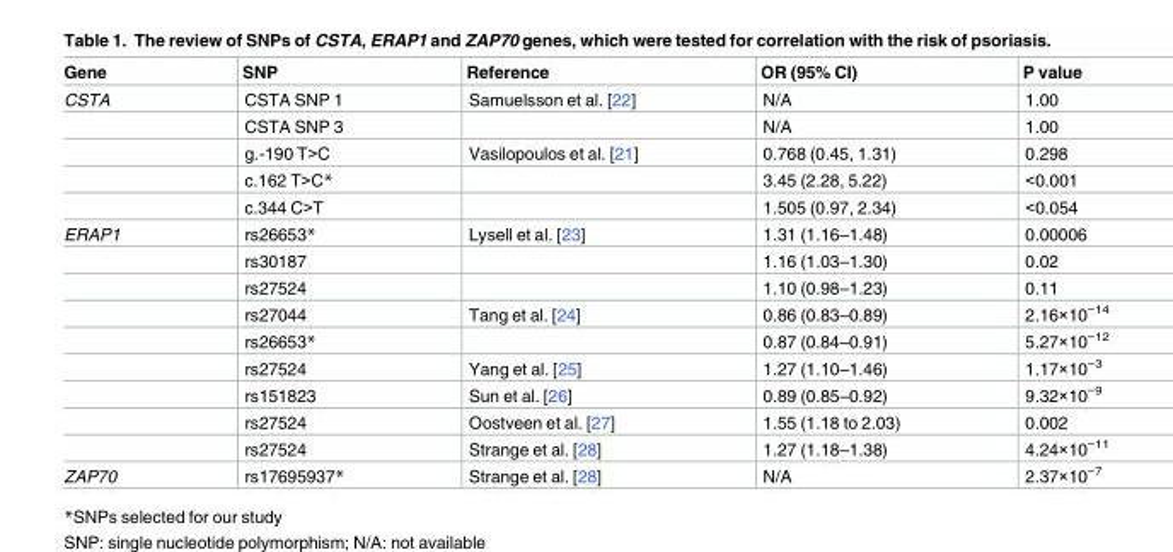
<table><thead><tr><td>Gene</td><td>SNP</td><td>Reference</td><td>OR (95% CI)</td><td>P value</td></tr></thead><tbody><tr><td rowspan="5">CSTA</td><td>CSTA SNP 1</td><td>Samuelsson et al. [22]</td><td>N/A</td><td>1.00</td></tr><tr><td>CSTA SNP 3</td><td></td><td>N/A</td><td>1.00</td></tr><tr><td>g.-190 T&gt;C</td><td>Vasilopoulos et al. [21]</td><td>0.768 (0.45, 1.31)</td><td>0.298</td></tr><tr><td>c.162 T&gt;C*</td><td></td><td>3.45 (2.28, 5.22)</td><td>&lt;0.001</td></tr><tr><td>c.344 C&gt;T</td><td></td><td>1.505 (0.97, 2.34)</td><td>&lt;0.054</td></tr><tr><td rowspan="9">ERAP1</td><td>rs26653*</td><td>Lysell et al. [23]</td><td>1.31 (1.16–1.48)</td><td>0.00006</td></tr><tr><td>rs30187</td><td></td><td>1.16 (1.03–1.30)</td><td>0.02</td></tr><tr><td>rs27524</td><td></td><td>1.10 (0.98–1.23)</td><td>0.11</td></tr><tr><td>rs27044</td><td>Tang et al. [24]</td><td>0.86 (0.83–0.89)</td><td>2.16×10<sup>−14</sup></td></tr><tr><td>rs26653*</td><td></td><td>0.87 (0.84–0.91)</td><td>5.27×10<sup>−12</sup></td></tr><tr><td>rs27524</td><td>Yang et al. [25]</td><td>1.27 (1.10–1.46)</td><td>1.17×10<sup>−3</sup></td></tr><tr><td>rs151823</td><td>Sun et al. [26]</td><td>0.89 (0.85–0.92)</td><td>9.32×10<sup>−9</sup></td></tr><tr><td>rs27524</td><td>Oostveen et al. [27]</td><td>1.55 (1.18 to 2.03)</td><td>0.002</td></tr><tr><td>rs27524</td><td>Strange et al. [28]</td><td>1.27 (1.18–1.38)</td><td>4.24×10<sup>−11</sup></td></tr><tr><td>ZAP70</td><td>rs17695937*</td><td>Strange et al. [28]</td><td>N/A</td><td>2.37×10<sup>−7</sup></td></tr></tbody></table>